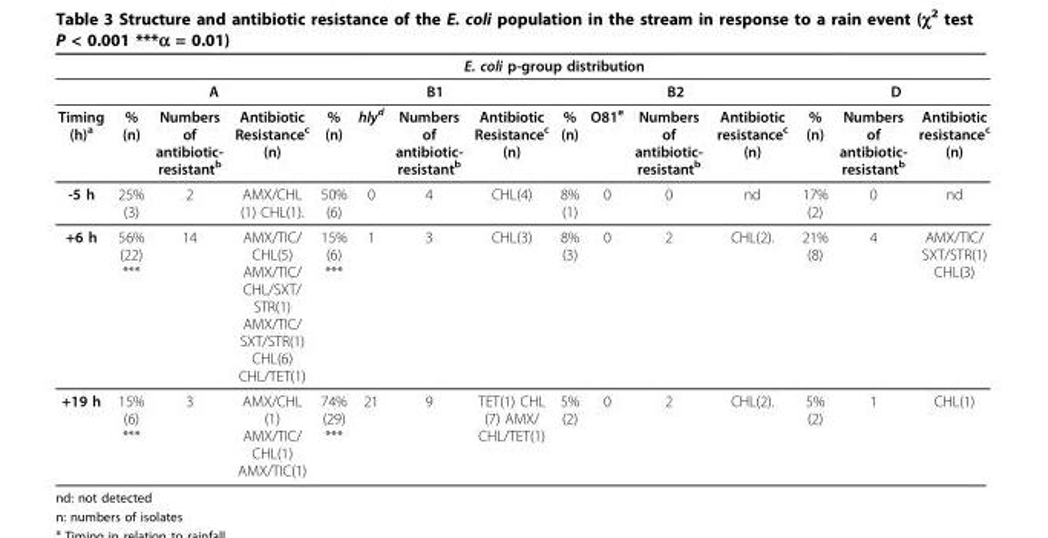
<table><thead><tr><td rowspan="3">Timing (h)<sup>a</sup></td><td colspan="14">E. coli p-group distribution</td></tr><tr><td colspan="3">A</td><td colspan="4">B1</td><td colspan="4">B2</td><td colspan="3">D</td></tr><tr><td>% (n)</td><td>Numbers of antibiotic- resistant<sup>b</sup></td><td>Antibiotic Resistance<sup>c</sup> (n)</td><td>% (n)</td><td>hly<sup>d</sup></td><td>Numbers of antibiotic- resistant<sup>b</sup></td><td>Antibiotic Resistance<sup>c</sup> (n)</td><td>% (n)</td><td>O81<sup>e</sup></td><td>Numbers of antibiotic- resistant<sup>b</sup></td><td>Antibiotic resistance<sup>c</sup> (n)</td><td>% (n)</td><td>Numbers of antibiotic- resistant<sup>b</sup></td><td>Antibiotic resistance<sup>c</sup> (n)</td></tr></thead><tbody><tr><td>-5 h</td><td>25% (3)</td><td>2</td><td>AMX/CHL (1) CHL(1).</td><td>50% (6)</td><td>0</td><td>4</td><td>CHL(4)</td><td>8% (1)</td><td>0</td><td>0</td><td>nd</td><td>17% (2)</td><td>0</td><td>nd</td></tr><tr><td>+6 h</td><td>56% (22) ***</td><td>14</td><td>AMX/TIC/ CHL(5) AMX/TIC/ CHL/SXT/ STR(1) AMX/TIC/ SXT/STR(1) CHL(6) CHL/TET(1)</td><td>15% (6) ***</td><td>1</td><td>3</td><td>CHL(3)</td><td>8% (3)</td><td>0</td><td>2</td><td>CHL(2).</td><td>21% (8)</td><td>4</td><td>AMX/TIC/ SXT/STR(1) CHL(3)</td></tr><tr><td>+19 h</td><td>15% (6) ***</td><td>3</td><td>AMX/CHL (1) AMX/TIC/ CHL(1) AMX/TIC(1)</td><td>74% (29) ***</td><td>21</td><td>9</td><td>TET(1) CHL (7) AMX/ CHL/TET(1)</td><td>5% (2)</td><td>0</td><td>2</td><td>CHL(2).</td><td>5% (2)</td><td>1</td><td>CHL(1)</td></tr></tbody></table>